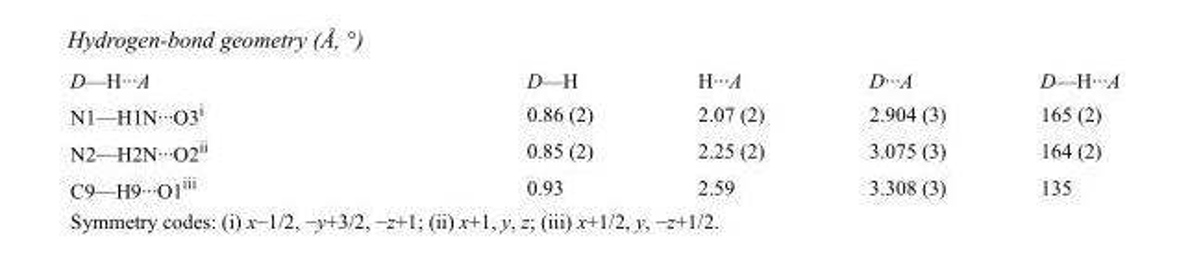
<table><tbody><tr><td>D—H···A</td><td>D—H</td><td>H···A</td><td>D···A</td><td>D—H···A</td></tr><tr><td>N1—H1N···O3<sup>i</sup></td><td>0.86 (2)</td><td>2.07 (2)</td><td>2.904 (3)</td><td>165 (2)</td></tr><tr><td>N2—H2N···O2<sup>ii</sup></td><td>0.85 (2)</td><td>2.25 (2)</td><td>3.075 (3)</td><td>164 (2)</td></tr><tr><td>C9—H9···O1<sup>iii</sup></td><td>0.93</td><td>2.59</td><td>3.308 (3)</td><td>135</td></tr></tbody></table>